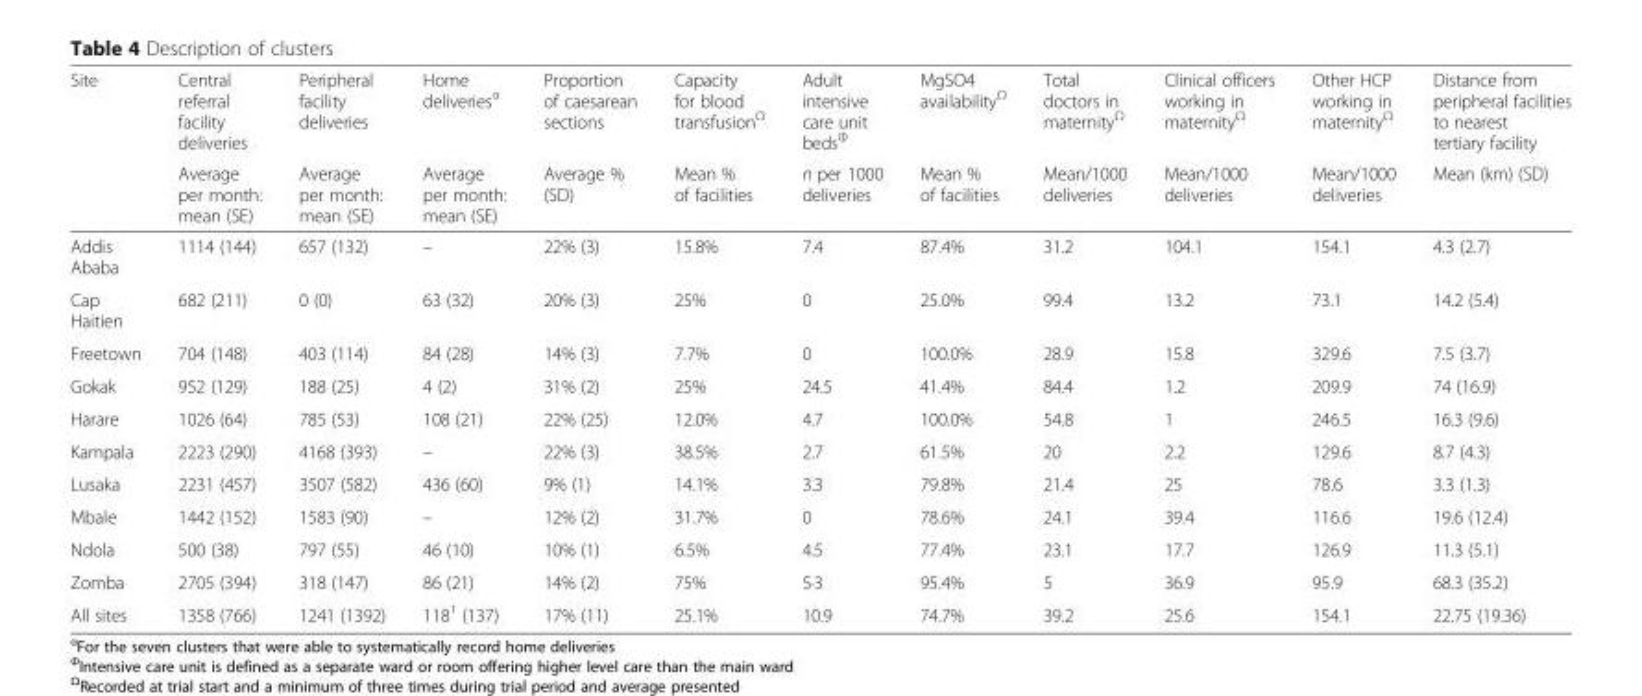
<table><thead><tr><td rowspan="2">Site</td><td rowspan="2">Central referral facility deliveries Average per month: mean (SE)</td><td rowspan="2">Peripheral facility deliveries Average per month: mean (SE)</td><td rowspan="2">Home deliveries<sup>α</sup> Average per month: mean (SE)</td><td rowspan="2">Proportion of caesarean sections Average % (SD)</td><td rowspan="2">Capacity for blood transfusion<sup>Ω</sup> Mean % of facilities</td><td rowspan="2">Adult intensive care unit beds<sup>Φ</sup> n per 1000 deliveries</td><td rowspan="2">MgSO4 availability<sup>Ω</sup> Mean % of facilities</td><td rowspan="2">Total doctors in maternity<sup>Ω</sup> Mean/1000 deliveries</td><td rowspan="2">Clinical officers working in maternity<sup>Ω</sup> Mean/1000 deliveries</td><td rowspan="2">Other HCP working in maternity<sup>Ω</sup> Mean/1000 deliveries</td><td rowspan="2">Distance from peripheral facilities to nearest tertiary facility Mean (km) (SD)</td></tr><tr></tr></thead><tbody><tr><td>Addis Ababa</td><td>1114 (144)</td><td>657 (132)</td><td>–</td><td>22% (3)</td><td>15.8%</td><td>7.4</td><td>87.4%</td><td>31.2</td><td>104.1</td><td>154.1</td><td>4.3 (2.7)</td></tr><tr><td>Cap Haitien</td><td>682 (211)</td><td>0 (0)</td><td>63 (32)</td><td>20% (3)</td><td>25%</td><td>0</td><td>25.0%</td><td>99.4</td><td>13.2</td><td>73.1</td><td>14.2 (5.4)</td></tr><tr><td>Freetown</td><td>704 (148)</td><td>403 (114)</td><td>84 (28)</td><td>14% (3)</td><td>7.7%</td><td>0</td><td>100.0%</td><td>28.9</td><td>15.8</td><td>329.6</td><td>7.5 (3.7)</td></tr><tr><td>Gokak</td><td>952 (129)</td><td>188 (25)</td><td>4 (2)</td><td>31% (2)</td><td>25%</td><td>24.5</td><td>41.4%</td><td>84.4</td><td>1.2</td><td>209.9</td><td>74 (16.9)</td></tr><tr><td>Harare</td><td>1026 (64)</td><td>785 (53)</td><td>108 (21)</td><td>22% (25)</td><td>12.0%</td><td>4.7</td><td>100.0%</td><td>54.8</td><td>1</td><td>246.5</td><td>16.3 (9.6)</td></tr><tr><td>Kampala</td><td>2223 (290)</td><td>4168 (393)</td><td>–</td><td>22% (3)</td><td>38.5%</td><td>2.7</td><td>61.5%</td><td>20</td><td>2.2</td><td>129.6</td><td>8.7 (4.3)</td></tr><tr><td>Lusaka</td><td>2231 (457)</td><td>3507 (582)</td><td>436 (60)</td><td>9% (1)</td><td>14.1%</td><td>3.3</td><td>79.8%</td><td>21.4</td><td>25</td><td>78.6</td><td>3.3 (1.3)</td></tr><tr><td>Mbale</td><td>1442 (152)</td><td>1583 (90)</td><td>–</td><td>12% (2)</td><td>31.7%</td><td>0</td><td>78.6%</td><td>24.1</td><td>39.4</td><td>116.6</td><td>19.6 (12.4)</td></tr><tr><td>Ndola</td><td>500 (38)</td><td>797 (55)</td><td>46 (10)</td><td>10% (1)</td><td>6.5%</td><td>4.5</td><td>77.4%</td><td>23.1</td><td>17.7</td><td>126.9</td><td>11.3 (5.1)</td></tr><tr><td>Zomba</td><td>2705 (394)</td><td>318 (147)</td><td>86 (21)</td><td>14% (2)</td><td>75%</td><td>5·3</td><td>95.4%</td><td>5</td><td>36.9</td><td>95.9</td><td>68.3 (35.2)</td></tr><tr><td>All sites</td><td>1358 (766)</td><td>1241 (1392)</td><td>118<sup>1</sup> (137)</td><td>17% (11)</td><td>25.1%</td><td>10.9</td><td>74.7%</td><td>39.2</td><td>25.6</td><td>154.1</td><td>22.75 (19.36)</td></tr></tbody></table>